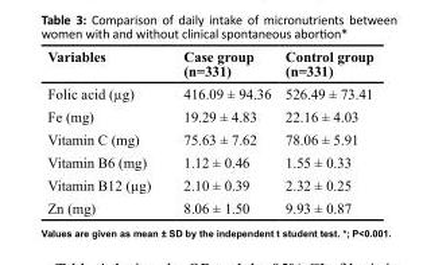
<table><thead><tr><td>Variables</td><td>Case group (n=331)</td><td>Control group (n=331)</td></tr></thead><tbody><tr><td>Folic acid (µg)</td><td>416.09 ± 94.36</td><td>526.49 ± 73.41</td></tr><tr><td>Fe (mg)</td><td>19.29 ± 4.83</td><td>22.16 ± 4.03</td></tr><tr><td>Vitamin C (mg)</td><td>75.63 ± 7.62</td><td>78.06 ± 5.91</td></tr><tr><td>Vitamin B6 (mg)</td><td>1.12 ± 0.46</td><td>1.55 ± 0.33</td></tr><tr><td>Vitamin B12 (µg)</td><td>2.10 ± 0.39</td><td>2.32 ± 0.25</td></tr><tr><td>Zn (mg)</td><td>8.06 ± 1.50</td><td>9.93 ± 0.87</td></tr></tbody></table>